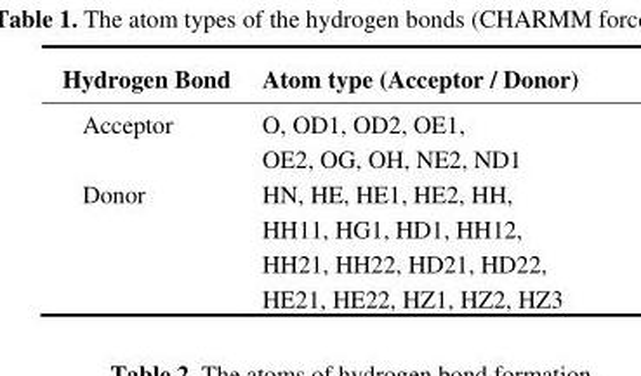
<table><thead><tr><td>Hydrogen Bond</td><td>Atom type (Acceptor / Donor)</td></tr></thead><tbody><tr><td>Acceptor</td><td>O, OD1, OD2, OE1, OE2, OG, OH, NE2, ND1</td></tr><tr><td>Donor</td><td>HN, HE, HE1, HE2, HH, HH11, HG1, HD1, HH12, HH21, HH22, HD21, HD22, HE21, HE22, HZ1, HZ2, HZ3</td></tr></tbody></table>